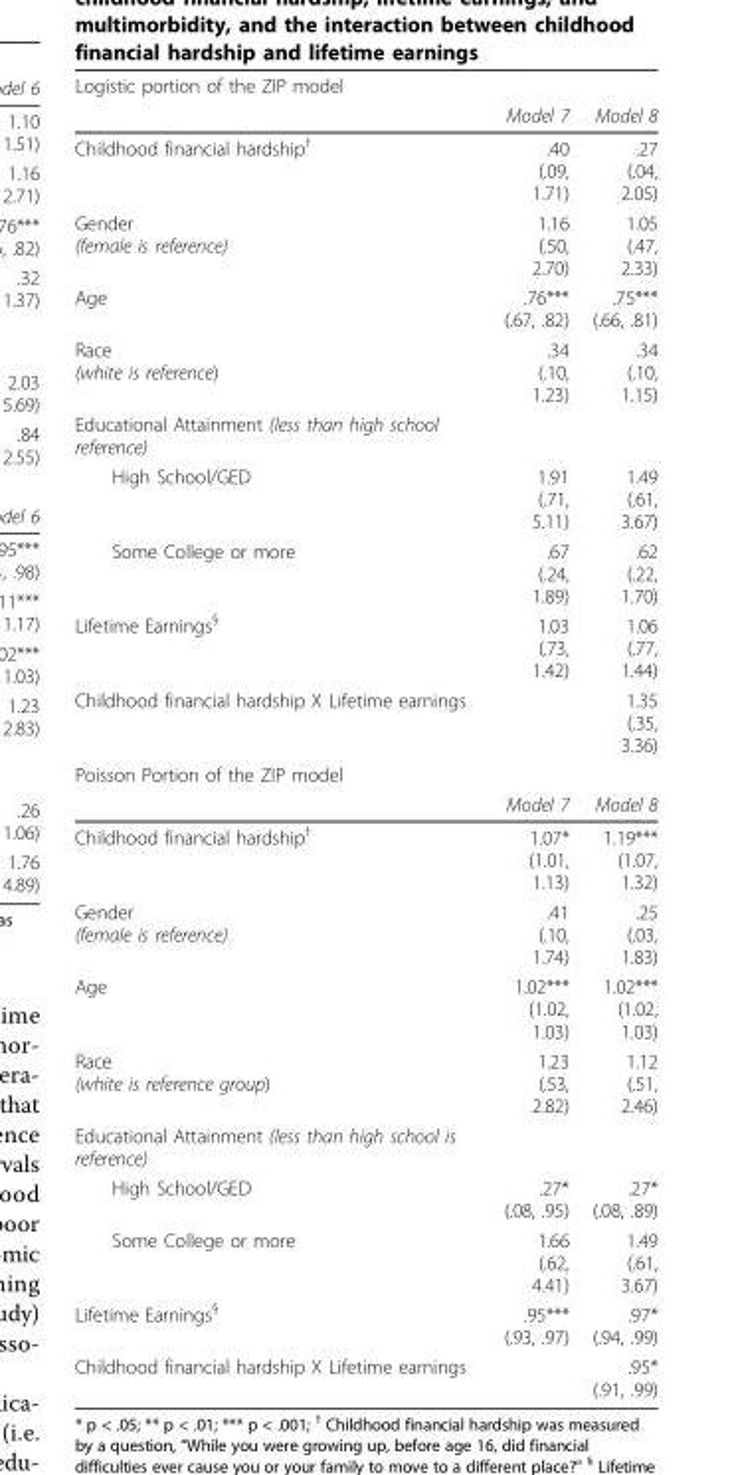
<table><thead><tr><td rowspan="2">Logistic portion of the ZIP model</td><td rowspan="2">Model 7</td><td rowspan="2">Model 8</td></tr><tr></tr></thead><tbody><tr><td>Childhood financial hardship<sup>†</sup></td><td>.40 (.09, 1.71)</td><td>.27 (.04, 2.05)</td></tr><tr><td>Gender (female is reference)</td><td>1.16 (.50, 2.70)</td><td>1.05 (.47, 2.33)</td></tr><tr><td>Age</td><td>.76*** (.67, .82)</td><td>.75*** (.66, .81)</td></tr><tr><td>Race (white is reference)</td><td>.34 (.10, 1.23)</td><td>.34 (.10, 1.15)</td></tr><tr><td colspan="3">Educational Attainment (less than high school reference)</td></tr><tr><td>High School/GED</td><td>1.91 (.71, 5.11)</td><td>1.49 (.61, 3.67)</td></tr><tr><td>Some College or more</td><td>.67 (.24, 1.89)</td><td>.62 (.22, 1.70)</td></tr><tr><td>Lifetime Earnings<sup>§</sup></td><td>1.03 (.73, 1.42)</td><td>1.06 (.77, 1.44)</td></tr><tr><td>Childhood financial hardship X Lifetime earnings</td><td></td><td>1.35 (.35, 3.36)</td></tr><tr><td colspan="3">Poisson Portion of the ZIP model</td></tr><tr><td></td><td>Model 7</td><td>Model 8</td></tr><tr><td>Childhood financial hardship<sup>†</sup></td><td>1.07* (1.01, 1.13)</td><td>1.19*** (1.07, 1.32)</td></tr><tr><td>Gender (female is reference)</td><td>.41 (.10, 1.74)</td><td>.25 (.03, 1.83)</td></tr><tr><td>Age</td><td>1.02*** (1.02, 1.03)</td><td>1.02*** (1.02, 1.03)</td></tr><tr><td>Race (white is reference group)</td><td>1.23 (.53, 2.82)</td><td>1.12 (.51, 2.46)</td></tr><tr><td colspan="3">Educational Attainment (less than high school is reference)</td></tr><tr><td>High School/GED</td><td>.27* (.08, .95)</td><td>.27* (.08, .89)</td></tr><tr><td>Some College or more</td><td>1.66 (.62, 4.41)</td><td>1.49 (.61, 3.67)</td></tr><tr><td>Lifetime Earnings<sup>§</sup></td><td>.95*** (.93, .97)</td><td>.97* (.94, .99)</td></tr><tr><td>Childhood financial hardship X Lifetime earnings</td><td></td><td>.95* (.91, .99)</td></tr></tbody></table>